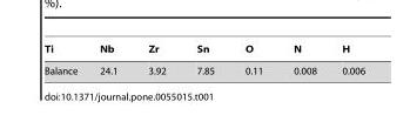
<table><thead><tr><td>Ti</td><td>Nb</td><td>Zr</td><td>Sn</td><td>O</td><td>N</td><td>H</td></tr></thead><tbody><tr><td>Balance</td><td>24.1</td><td>3.92</td><td>7.85</td><td>0.11</td><td>0.008</td><td>0.006</td></tr></tbody></table>